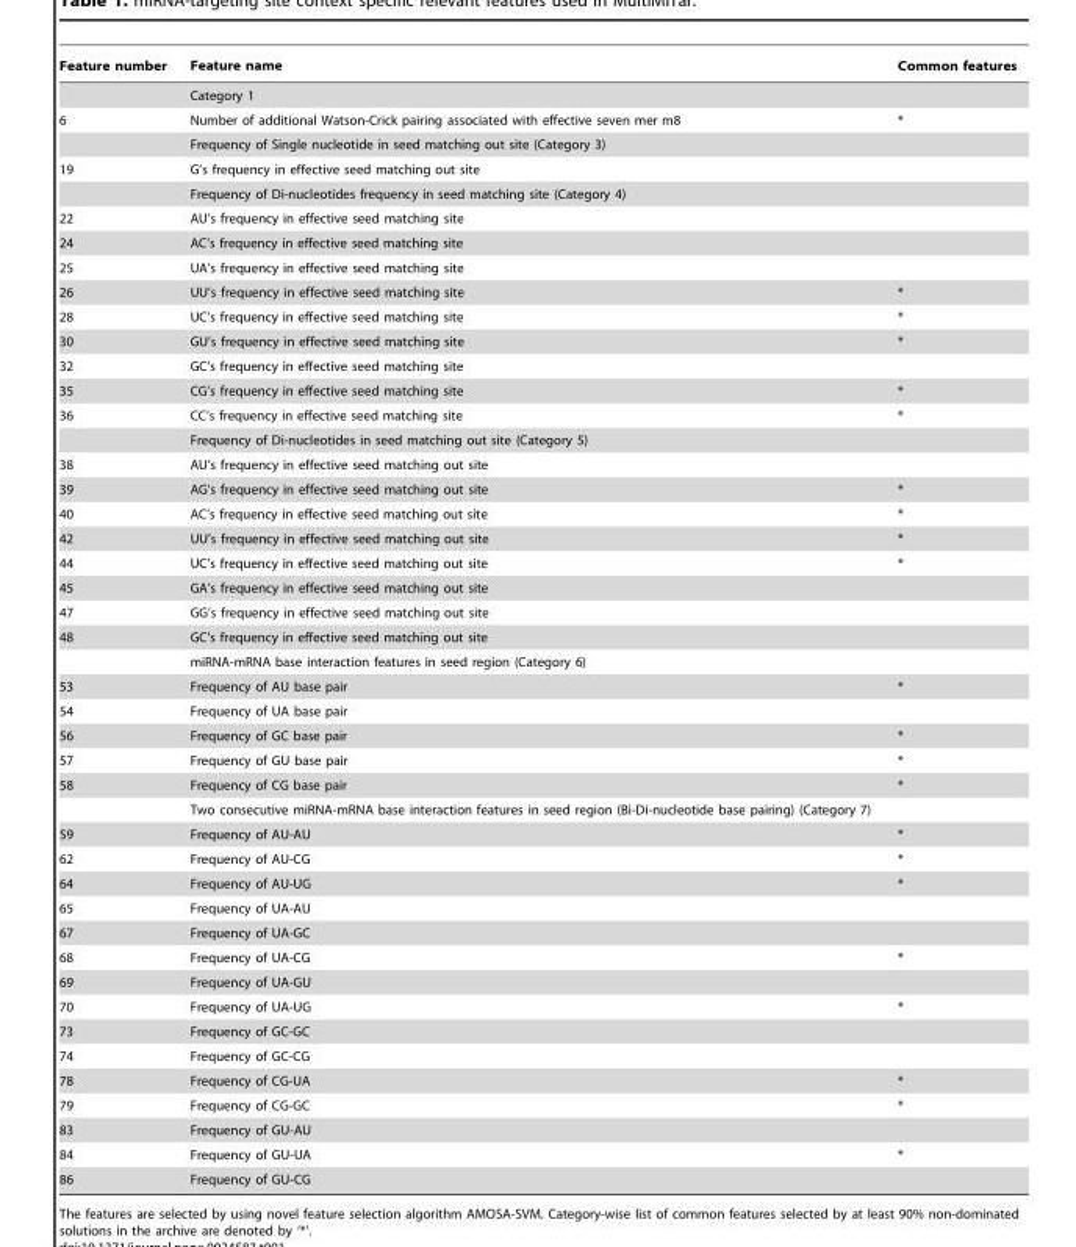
<table><thead><tr><td>Feature number</td><td>Feature name</td><td>Common features</td></tr></thead><tbody><tr><td></td><td>Category 1</td><td></td></tr><tr><td rowspan="2">6</td><td>Number of additional Watson-Crick pairing associated with effective seven mer m8</td><td>*</td></tr><tr><td>Frequency of Single nucleotide in seed matching out site (Category 3)</td><td></td></tr><tr><td rowspan="2">19</td><td>G’s frequency in effective seed matching out site</td><td></td></tr><tr><td>Frequency of Di-nucleotides frequency in seed matching site (Category 4)</td><td></td></tr><tr><td>22</td><td>AU’s frequency in effective seed matching site</td><td></td></tr><tr><td>24</td><td>AC’s frequency in effective seed matching site</td><td></td></tr><tr><td>25</td><td>UA’s frequency in effective seed matching site</td><td></td></tr><tr><td>26</td><td>UU’s frequency in effective seed matching site</td><td>*</td></tr><tr><td>28</td><td>UC’s frequency in effective seed matching site</td><td>*</td></tr><tr><td>30</td><td>GU’s frequency in effective seed matching site</td><td>*</td></tr><tr><td>32</td><td>GC’s frequency in effective seed matching site</td><td></td></tr><tr><td>35</td><td>CG’s frequency in effective seed matching site</td><td>*</td></tr><tr><td rowspan="2">36</td><td>CC’s frequency in effective seed matching site</td><td>*</td></tr><tr><td>Frequency of Di-nucleotides in seed matching out site (Category 5)</td><td></td></tr><tr><td>38</td><td>AU’s frequency in effective seed matching out site</td><td></td></tr><tr><td>39</td><td>AG’s frequency in effective seed matching out site</td><td>*</td></tr><tr><td>40</td><td>AC’s frequency in effective seed matching out site</td><td>*</td></tr><tr><td>42</td><td>UU’s frequency in effective seed matching out site</td><td>*</td></tr><tr><td>44</td><td>UC’s frequency in effective seed matching out site</td><td>*</td></tr><tr><td>45</td><td>GA’s frequency in effective seed matching out site</td><td></td></tr><tr><td>47</td><td>GG’s frequency in effective seed matching out site</td><td></td></tr><tr><td rowspan="2">48</td><td>GC’s frequency in effective seed matching out site</td><td></td></tr><tr><td>miRNA-mRNA base interaction features in seed region (Category 6)</td><td></td></tr><tr><td>53</td><td>Frequency of AU base pair</td><td>*</td></tr><tr><td>54</td><td>Frequency of UA base pair</td><td></td></tr><tr><td>56</td><td>Frequency of GC base pair</td><td>*</td></tr><tr><td>57</td><td>Frequency of GU base pair</td><td>*</td></tr><tr><td rowspan="2">58</td><td>Frequency of CG base pair</td><td>*</td></tr><tr><td>Two consecutive miRNA-mRNA base interaction features in seed region (Bi-Di-nucleotide base pairing) (Category 7)</td><td></td></tr><tr><td>59</td><td>Frequency of AU-AU</td><td>*</td></tr><tr><td>62</td><td>Frequency of AU-CG</td><td>*</td></tr><tr><td>64</td><td>Frequency of AU-UG</td><td>*</td></tr><tr><td>65</td><td>Frequency of UA-AU</td><td></td></tr><tr><td>67</td><td>Frequency of UA-GC</td><td></td></tr><tr><td>68</td><td>Frequency of UA-CG</td><td>*</td></tr><tr><td>69</td><td>Frequency of UA-GU</td><td></td></tr><tr><td>70</td><td>Frequency of UA-UG</td><td>*</td></tr><tr><td>73</td><td>Frequency of GC-GC</td><td></td></tr><tr><td>74</td><td>Frequency of GC-CG</td><td></td></tr><tr><td>78</td><td>Frequency of CG-UA</td><td>*</td></tr><tr><td>79</td><td>Frequency of CG-GC</td><td>*</td></tr><tr><td>83</td><td>Frequency of GU-AU</td><td></td></tr><tr><td>84</td><td>Frequency of GU-UA</td><td>*</td></tr><tr><td>86</td><td>Frequency of GU-CG</td><td></td></tr></tbody></table>